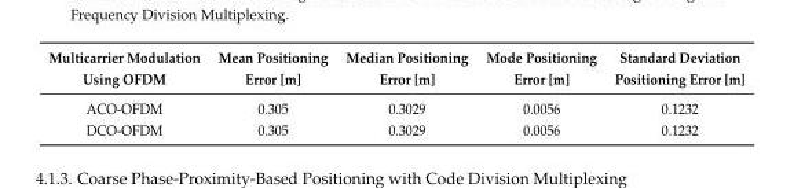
<table><thead><tr><td>Multicarrier Modulation Using OFDM</td><td>Mean Positioning Error [m]</td><td>Median Positioning Error [m]</td><td>Mode Positioning Error [m]</td><td>Standard Deviation Positioning Error [m]</td></tr></thead><tbody><tr><td>ACO-OFDM</td><td>0.305</td><td>0.3029</td><td>0.0056</td><td>0.1232</td></tr><tr><td>DCO-OFDM</td><td>0.305</td><td>0.3029</td><td>0.0056</td><td>0.1232</td></tr></tbody></table>